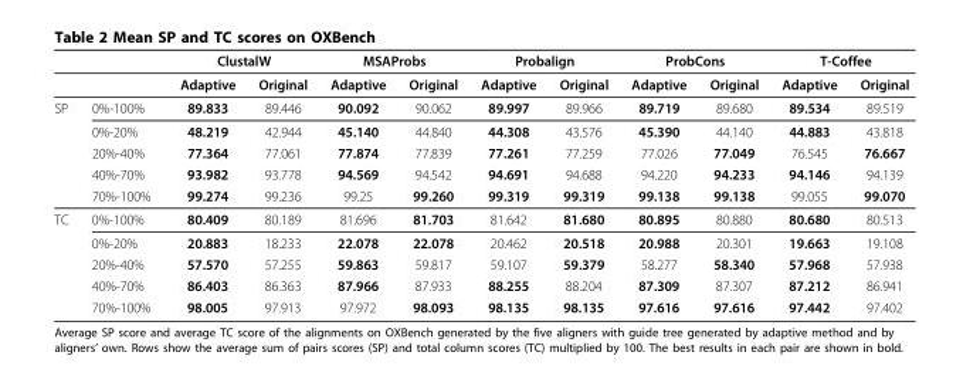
<table><thead><tr><td rowspan="2"></td><td rowspan="2"></td><td colspan="2">ClustalW</td><td colspan="2">MSAProbs</td><td colspan="2">Probalign</td><td colspan="2">ProbCons</td><td colspan="2">T-Coffee</td></tr><tr><td>Adaptive</td><td>Original</td><td>Adaptive</td><td>Original</td><td>Adaptive</td><td>Original</td><td>Adaptive</td><td>Original</td><td>Adaptive</td><td>Original</td></tr></thead><tbody><tr><td rowspan="5">SP</td><td>0%-100%</td><td>89.833</td><td>89.446</td><td>90.092</td><td>90.062</td><td>89.997</td><td>89.966</td><td>89.719</td><td>89.680</td><td>89.534</td><td>89.519</td></tr><tr><td>0%-20%</td><td>48.219</td><td>42.944</td><td>45.140</td><td>44.840</td><td>44.308</td><td>43.576</td><td>45.390</td><td>44.140</td><td>44.883</td><td>43.818</td></tr><tr><td>20%-40%</td><td>77.364</td><td>77.061</td><td>77.874</td><td>77.839</td><td>77.261</td><td>77.259</td><td>77.026</td><td>77.049</td><td>76.545</td><td>76.667</td></tr><tr><td>40%-70%</td><td>93.982</td><td>93.778</td><td>94.569</td><td>94.542</td><td>94.691</td><td>94.688</td><td>94.220</td><td>94.233</td><td>94.146</td><td>94.139</td></tr><tr><td>70%-100%</td><td>99.274</td><td>99.236</td><td>99.25</td><td>99.260</td><td>99.319</td><td>99.319</td><td>99.138</td><td>99.138</td><td>99.055</td><td>99.070</td></tr><tr><td rowspan="5">TC</td><td>0%-100%</td><td>80.409</td><td>80.189</td><td>81.696</td><td>81.703</td><td>81.642</td><td>81.680</td><td>80.895</td><td>80.880</td><td>80.680</td><td>80.513</td></tr><tr><td>0%-20%</td><td>20.883</td><td>18.233</td><td>22.078</td><td>22.078</td><td>20.462</td><td>20.518</td><td>20.988</td><td>20.301</td><td>19.663</td><td>19.108</td></tr><tr><td>20%-40%</td><td>57.570</td><td>57.255</td><td>59.863</td><td>59.817</td><td>59.107</td><td>59.379</td><td>58.277</td><td>58.340</td><td>57.968</td><td>57.938</td></tr><tr><td>40%-70%</td><td>86.403</td><td>86.363</td><td>87.966</td><td>87.933</td><td>88.255</td><td>88.204</td><td>87.309</td><td>87.307</td><td>87.212</td><td>86.941</td></tr><tr><td>70%-100%</td><td>98.005</td><td>97.913</td><td>97.972</td><td>98.093</td><td>98.135</td><td>98.135</td><td>97.616</td><td>97.616</td><td>97.442</td><td>97.402</td></tr></tbody></table>